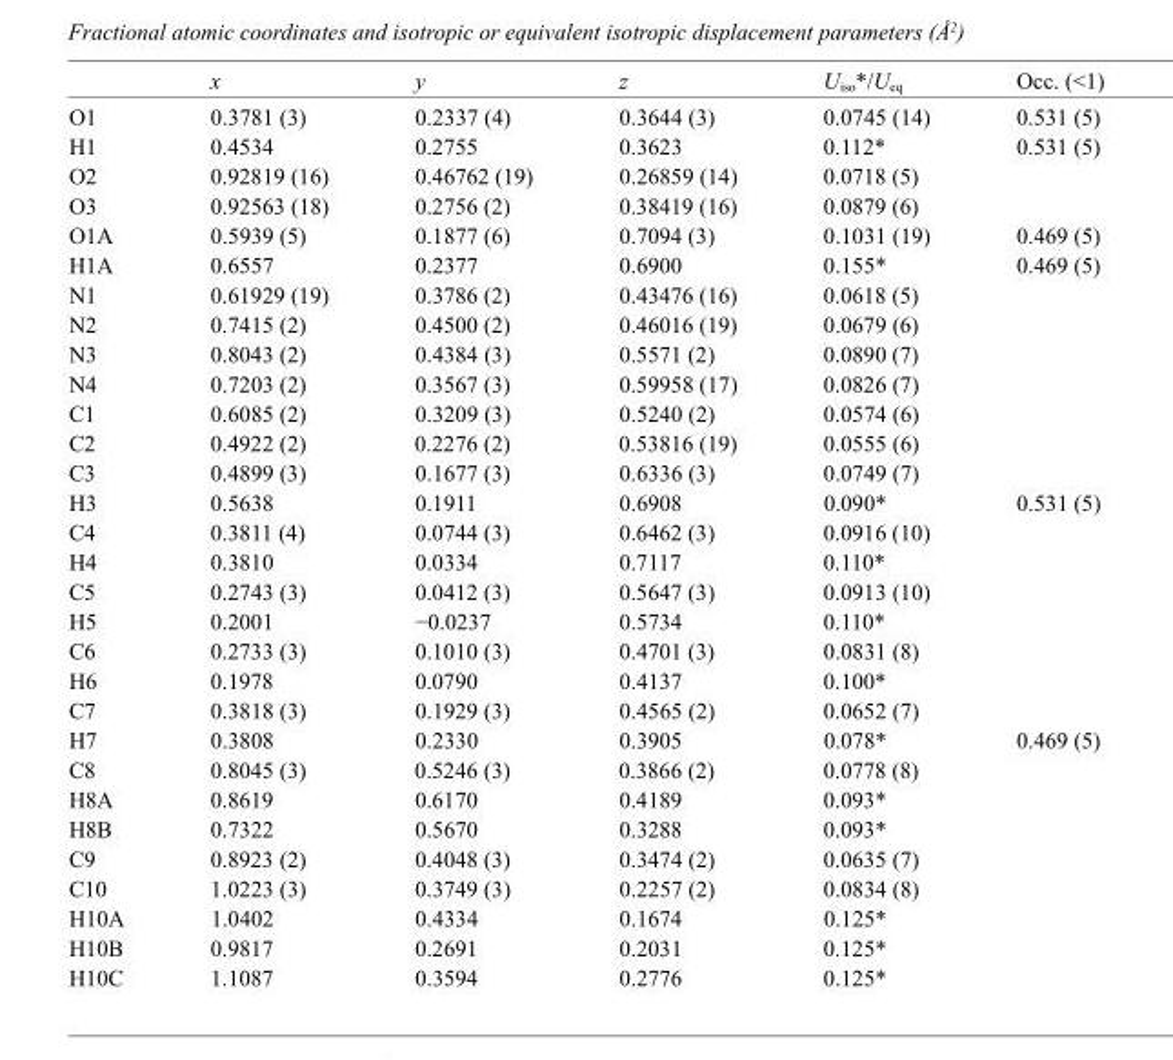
<table><thead><tr><td></td><td>x</td><td>y</td><td>z</td><td>U<sub>iso</sub>*/U<sub>eq</sub></td><td>Occ. (&lt;1)</td></tr></thead><tbody><tr><td>O1</td><td>0.3781 (3)</td><td>0.2337 (4)</td><td>0.3644 (3)</td><td>0.0745 (14)</td><td>0.531 (5)</td></tr><tr><td>H1</td><td>0.4534</td><td>0.2755</td><td>0.3623</td><td>0.112*</td><td>0.531 (5)</td></tr><tr><td>O2</td><td>0.92819 (16)</td><td>0.46762 (19)</td><td>0.26859 (14)</td><td>0.0718 (5)</td><td></td></tr><tr><td>O3</td><td>0.92563 (18)</td><td>0.2756 (2)</td><td>0.38419 (16)</td><td>0.0879 (6)</td><td></td></tr><tr><td>O1A</td><td>0.5939 (5)</td><td>0.1877 (6)</td><td>0.7094 (3)</td><td>0.1031 (19)</td><td>0.469 (5)</td></tr><tr><td>H1A</td><td>0.6557</td><td>0.2377</td><td>0.6900</td><td>0.155*</td><td>0.469 (5)</td></tr><tr><td>N1</td><td>0.61929 (19)</td><td>0.3786 (2)</td><td>0.43476 (16)</td><td>0.0618 (5)</td><td></td></tr><tr><td>N2</td><td>0.7415 (2)</td><td>0.4500 (2)</td><td>0.46016 (19)</td><td>0.0679 (6)</td><td></td></tr><tr><td>N3</td><td>0.8043 (2)</td><td>0.4384 (3)</td><td>0.5571 (2)</td><td>0.0890 (7)</td><td></td></tr><tr><td>N4</td><td>0.7203 (2)</td><td>0.3567 (3)</td><td>0.59958 (17)</td><td>0.0826 (7)</td><td></td></tr><tr><td>C1</td><td>0.6085 (2)</td><td>0.3209 (3)</td><td>0.5240 (2)</td><td>0.0574 (6)</td><td></td></tr><tr><td>C2</td><td>0.4922 (2)</td><td>0.2276 (2)</td><td>0.53816 (19)</td><td>0.0555 (6)</td><td></td></tr><tr><td>C3</td><td>0.4899 (3)</td><td>0.1677 (3)</td><td>0.6336 (3)</td><td>0.0749 (7)</td><td></td></tr><tr><td>H3</td><td>0.5638</td><td>0.1911</td><td>0.6908</td><td>0.090*</td><td>0.531 (5)</td></tr><tr><td>C4</td><td>0.3811 (4)</td><td>0.0744 (3)</td><td>0.6462 (3)</td><td>0.0916 (10)</td><td></td></tr><tr><td>H4</td><td>0.3810</td><td>0.0334</td><td>0.7117</td><td>0.110*</td><td></td></tr><tr><td>C5</td><td>0.2743 (3)</td><td>0.0412 (3)</td><td>0.5647 (3)</td><td>0.0913 (10)</td><td></td></tr><tr><td>H5</td><td>0.2001</td><td>−0.0237</td><td>0.5734</td><td>0.110*</td><td></td></tr><tr><td>C6</td><td>0.2733 (3)</td><td>0.1010 (3)</td><td>0.4701 (3)</td><td>0.0831 (8)</td><td></td></tr><tr><td>H6</td><td>0.1978</td><td>0.0790</td><td>0.4137</td><td>0.100*</td><td></td></tr><tr><td>C7</td><td>0.3818 (3)</td><td>0.1929 (3)</td><td>0.4565 (2)</td><td>0.0652 (7)</td><td></td></tr><tr><td>H7</td><td>0.3808</td><td>0.2330</td><td>0.3905</td><td>0.078*</td><td>0.469 (5)</td></tr><tr><td>C8</td><td>0.8045 (3)</td><td>0.5246 (3)</td><td>0.3866 (2)</td><td>0.0778 (8)</td><td></td></tr><tr><td>H8A</td><td>0.8619</td><td>0.6170</td><td>0.4189</td><td>0.093*</td><td></td></tr><tr><td>H8B</td><td>0.7322</td><td>0.5670</td><td>0.3288</td><td>0.093*</td><td></td></tr><tr><td>C9</td><td>0.8923 (2)</td><td>0.4048 (3)</td><td>0.3474 (2)</td><td>0.0635 (7)</td><td></td></tr><tr><td>C10</td><td>1.0223 (3)</td><td>0.3749 (3)</td><td>0.2257 (2)</td><td>0.0834 (8)</td><td></td></tr><tr><td>H10A</td><td>1.0402</td><td>0.4334</td><td>0.1674</td><td>0.125*</td><td></td></tr><tr><td>H10B</td><td>0.9817</td><td>0.2691</td><td>0.2031</td><td>0.125*</td><td></td></tr><tr><td>H10C</td><td>1.1087</td><td>0.3594</td><td>0.2776</td><td>0.125*</td><td></td></tr></tbody></table>